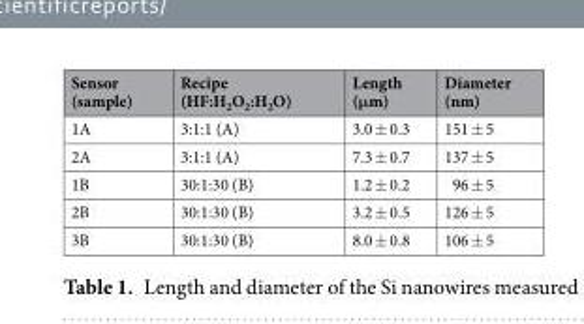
<table><thead><tr><td>Sensor (sample)</td><td>Recipe (HF:H<sub>2</sub>O<sub>2</sub>:H<sub>2</sub>O)</td><td>Length (μm)</td><td>Diameter (nm)</td></tr></thead><tbody><tr><td>1A</td><td>3:1:1 (A)</td><td>3.0 ± 0.3</td><td>151 ± 5</td></tr><tr><td>2A</td><td>3:1:1 (A)</td><td>7.3 ± 0.7</td><td>137 ± 5</td></tr><tr><td>1B</td><td>30:1:30 (B)</td><td>1.2 ± 0.2</td><td>96 ± 5</td></tr><tr><td>2B</td><td>30:1:30 (B)</td><td>3.2 ± 0.5</td><td>126 ± 5</td></tr><tr><td>3B</td><td>30:1:30 (B)</td><td>8.0 ± 0.8</td><td>106 ± 5</td></tr></tbody></table>